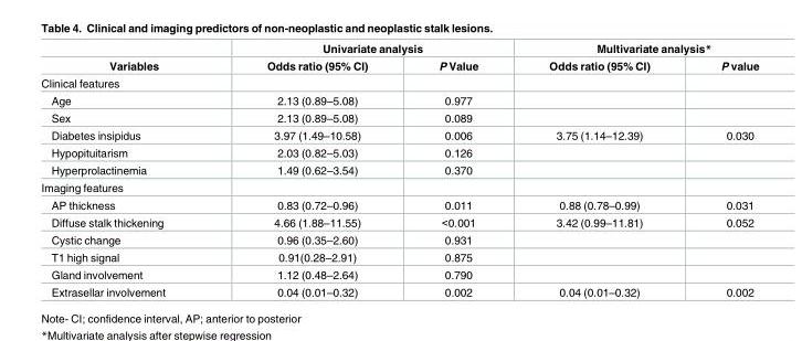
<table><thead><tr><td rowspan="2">Variables</td><td colspan="2">Univariate analysis</td><td colspan="2">Multivariate analysis*</td></tr><tr><td>Odds ratio (95% CI)</td><td>P Value</td><td>Odds ratio (95% CI)</td><td>P value</td></tr></thead><tbody><tr><td colspan="5">Clinical features</td></tr><tr><td>Age</td><td>2.13 (0.89–5.08)</td><td>0.977</td><td></td><td></td></tr><tr><td>Sex</td><td>2.13 (0.89–5.08)</td><td>0.089</td><td></td><td></td></tr><tr><td>Diabetes insipidus</td><td>3.97 (1.49–10.58)</td><td>0.006</td><td>3.75 (1.14–12.39)</td><td>0.030</td></tr><tr><td>Hypopituitarism</td><td>2.03 (0.82–5.03)</td><td>0.126</td><td></td><td></td></tr><tr><td>Hyperprolactinemia</td><td>1.49 (0.62–3.54)</td><td>0.370</td><td></td><td></td></tr><tr><td colspan="5">Imaging features</td></tr><tr><td>AP thickness</td><td>0.83 (0.72–0.96)</td><td>0.011</td><td>0.88 (0.78–0.99)</td><td>0.031</td></tr><tr><td>Diffuse stalk thickening</td><td>4.66 (1.88–11.55)</td><td>&lt;0.001</td><td>3.42 (0.99–11.81)</td><td>0.052</td></tr><tr><td>Cystic change</td><td>0.96 (0.35–2.60)</td><td>0.931</td><td></td><td></td></tr><tr><td>T1 high signal</td><td>0.91(0.28–2.91)</td><td>0.875</td><td></td><td></td></tr><tr><td>Gland involvement</td><td>1.12 (0.48–2.64)</td><td>0.790</td><td></td><td></td></tr><tr><td>Extrasellar involvement</td><td>0.04 (0.01–0.32)</td><td>0.002</td><td>0.04 (0.01–0.32)</td><td>0.002</td></tr></tbody></table>